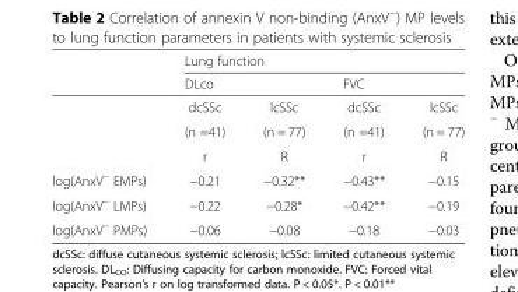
<table><thead><tr><td rowspan="3"></td><td colspan="4">Lung function</td></tr><tr><td colspan="2">DLco</td><td colspan="2">FVC</td></tr><tr><td>dcSSc</td><td>lcSSc</td><td>dcSSc</td><td>lcSSc</td></tr></thead><tbody><tr><td></td><td>(n =41)</td><td>(n = 77)</td><td>(n =41)</td><td>(n = 77)</td></tr><tr><td></td><td>r</td><td>R</td><td>r</td><td>R</td></tr><tr><td>log(AnxV<sup>−</sup> EMPs)</td><td>−0.21</td><td>−0.32**</td><td>−0.43**</td><td>−0.15</td></tr><tr><td>log(AnxV<sup>−</sup> LMPs)</td><td>−0.22</td><td>−0.28*</td><td>−0.42**</td><td>−0.19</td></tr><tr><td>log(AnxV<sup>−</sup> PMPs)</td><td>−0.06</td><td>−0.08</td><td>−0.18</td><td>−0.03</td></tr></tbody></table>